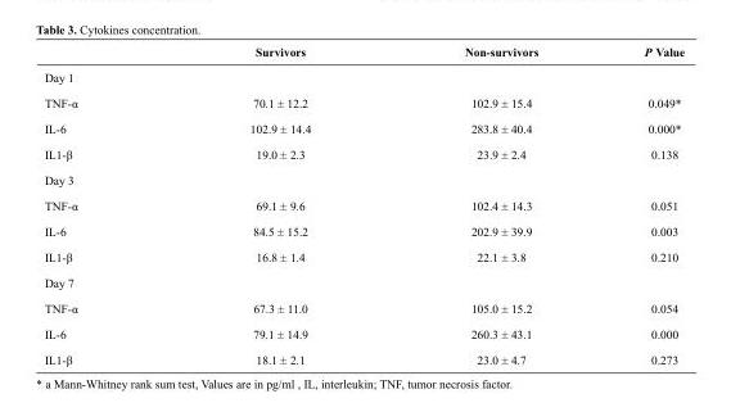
<table><thead><tr><td></td><td>Survivors</td><td>Non-survivors</td><td>P Value</td></tr></thead><tbody><tr><td colspan="4">Day 1</td></tr><tr><td>TNF-α</td><td>70.1 ± 12.2</td><td>102.9 ± 15.4</td><td>0.049*</td></tr><tr><td>IL-6</td><td>102.9 ± 14.4</td><td>283.8 ± 40.4</td><td>0.000*</td></tr><tr><td>IL1-β</td><td>19.0 ± 2.3</td><td>23.9 ± 2.4</td><td>0.138</td></tr><tr><td colspan="4">Day 3</td></tr><tr><td>TNF-α</td><td>69.1 ± 9.6</td><td>102.4 ± 14.3</td><td>0.051</td></tr><tr><td>IL-6</td><td>84.5 ± 15.2</td><td>202.9 ± 39.9</td><td>0.003</td></tr><tr><td>IL1-β</td><td>16.8 ± 1.4</td><td>22.1 ± 3.8</td><td>0.210</td></tr><tr><td colspan="4">Day 7</td></tr><tr><td>TNF-α</td><td>67.3 ± 11.0</td><td>105.0 ± 15.2</td><td>0.054</td></tr><tr><td>IL-6</td><td>79.1 ± 14.9</td><td>260.3 ± 43.1</td><td>0.000</td></tr><tr><td>IL1-β</td><td>18.1 ± 2.1</td><td>23.0 ± 4.7</td><td>0.273</td></tr></tbody></table>